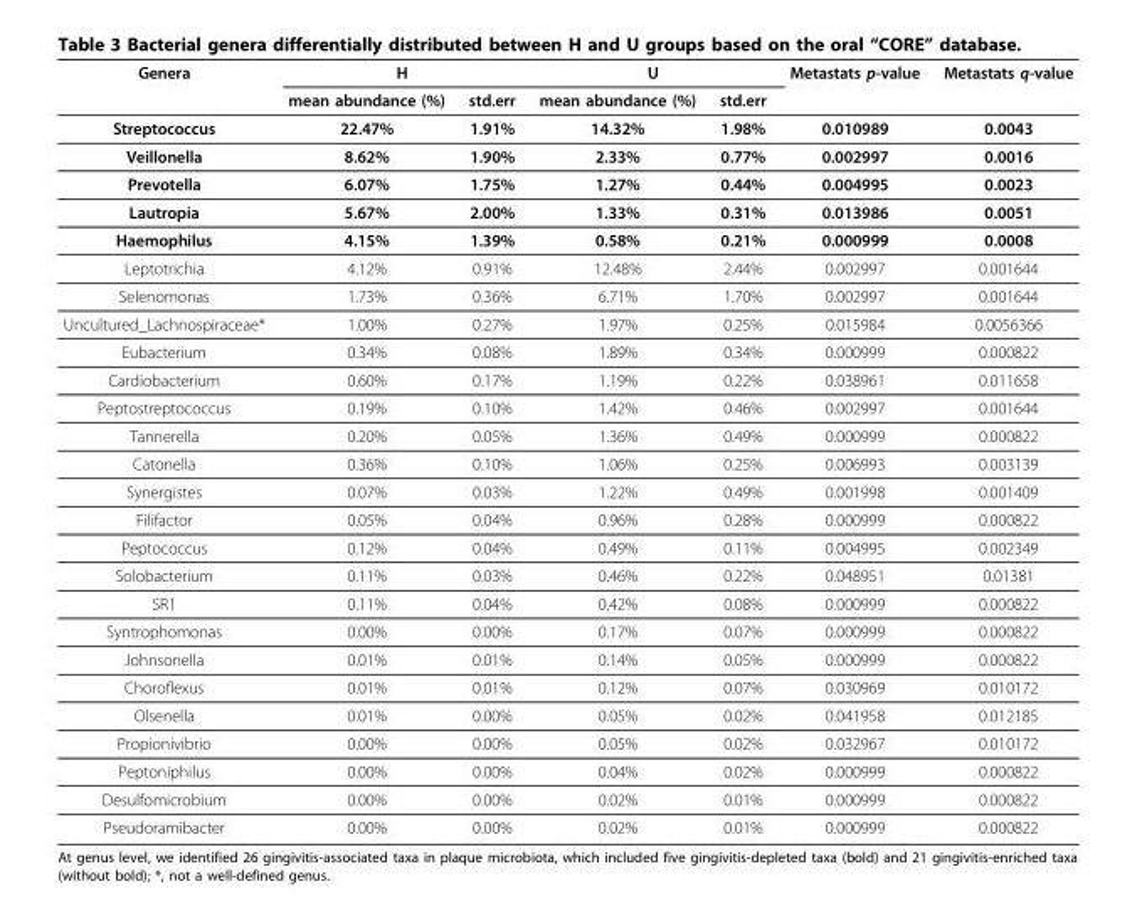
<table><thead><tr><td rowspan="2">Genera</td><td colspan="2">H</td><td colspan="2">U</td><td rowspan="2">Metastats p-value</td><td rowspan="2">Metastats q-value</td></tr><tr><td>mean abundance (%)</td><td>std.err</td><td>mean abundance (%)</td><td>std.err</td></tr></thead><tbody><tr><td>Streptococcus</td><td>22.47%</td><td>1.91%</td><td>14.32%</td><td>1.98%</td><td>0.010989</td><td>0.0043</td></tr><tr><td>Veillonella</td><td>8.62%</td><td>1.90%</td><td>2.33%</td><td>0.77%</td><td>0.002997</td><td>0.0016</td></tr><tr><td>Prevotella</td><td>6.07%</td><td>1.75%</td><td>1.27%</td><td>0.44%</td><td>0.004995</td><td>0.0023</td></tr><tr><td>Lautropia</td><td>5.67%</td><td>2.00%</td><td>1.33%</td><td>0.31%</td><td>0.013986</td><td>0.0051</td></tr><tr><td>Haemophilus</td><td>4.15%</td><td>1.39%</td><td>0.58%</td><td>0.21%</td><td>0.000999</td><td>0.0008</td></tr><tr><td>Leptotrichia</td><td>4.12%</td><td>0.91%</td><td>12.48%</td><td>2.44%</td><td>0.002997</td><td>0.001644</td></tr><tr><td>Selenomonas</td><td>1.73%</td><td>0.36%</td><td>6.71%</td><td>1.70%</td><td>0.002997</td><td>0.001644</td></tr><tr><td>Uncultured_Lachnospiraceae*</td><td>1.00%</td><td>0.27%</td><td>1.97%</td><td>0.25%</td><td>0.015984</td><td>0.0056366</td></tr><tr><td>Eubacterium</td><td>0.34%</td><td>0.08%</td><td>1.89%</td><td>0.34%</td><td>0.000999</td><td>0.000822</td></tr><tr><td>Cardiobacterium</td><td>0.60%</td><td>0.17%</td><td>1.19%</td><td>0.22%</td><td>0.038961</td><td>0.011658</td></tr><tr><td>Peptostreptococcus</td><td>0.19%</td><td>0.10%</td><td>1.42%</td><td>0.46%</td><td>0.002997</td><td>0.001644</td></tr><tr><td>Tannerella</td><td>0.20%</td><td>0.05%</td><td>1.36%</td><td>0.49%</td><td>0.000999</td><td>0.000822</td></tr><tr><td>Catonella</td><td>0.36%</td><td>0.10%</td><td>1.06%</td><td>0.25%</td><td>0.006993</td><td>0.003139</td></tr><tr><td>Synergistes</td><td>0.07%</td><td>0.03%</td><td>1.22%</td><td>0.49%</td><td>0.001998</td><td>0.001409</td></tr><tr><td>Filifactor</td><td>0.05%</td><td>0.04%</td><td>0.96%</td><td>0.28%</td><td>0.000999</td><td>0.000822</td></tr><tr><td>Peptococcus</td><td>0.12%</td><td>0.04%</td><td>0.49%</td><td>0.11%</td><td>0.004995</td><td>0.002349</td></tr><tr><td>Solobacterium</td><td>0.11%</td><td>0.03%</td><td>0.46%</td><td>0.22%</td><td>0.048951</td><td>0.01381</td></tr><tr><td>SR1</td><td>0.11%</td><td>0.04%</td><td>0.42%</td><td>0.08%</td><td>0.000999</td><td>0.000822</td></tr><tr><td>Syntrophomonas</td><td>0.00%</td><td>0.00%</td><td>0.17%</td><td>0.07%</td><td>0.000999</td><td>0.000822</td></tr><tr><td>Johnsonella</td><td>0.01%</td><td>0.01%</td><td>0.14%</td><td>0.05%</td><td>0.000999</td><td>0.000822</td></tr><tr><td>Choroflexus</td><td>0.01%</td><td>0.01%</td><td>0.12%</td><td>0.07%</td><td>0.030969</td><td>0.010172</td></tr><tr><td>Olsenella</td><td>0.01%</td><td>0.00%</td><td>0.05%</td><td>0.02%</td><td>0.041958</td><td>0.012185</td></tr><tr><td>Propionivibrio</td><td>0.00%</td><td>0.00%</td><td>0.05%</td><td>0.02%</td><td>0.032967</td><td>0.010172</td></tr><tr><td>Peptoniphilus</td><td>0.00%</td><td>0.00%</td><td>0.04%</td><td>0.02%</td><td>0.000999</td><td>0.000822</td></tr><tr><td>Desulfomicrobium</td><td>0.00%</td><td>0.00%</td><td>0.02%</td><td>0.01%</td><td>0.000999</td><td>0.000822</td></tr><tr><td>Pseudoramibacter</td><td>0.00%</td><td>0.00%</td><td>0.02%</td><td>0.01%</td><td>0.000999</td><td>0.000822</td></tr></tbody></table>